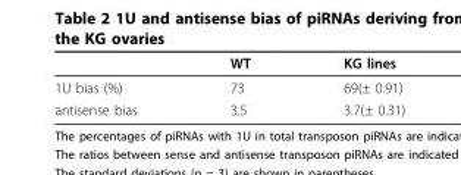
<table><thead><tr><td></td><td>WT</td><td>KG lines</td></tr></thead><tbody><tr><td>1U bias (%)</td><td>73</td><td>69(± 0.91)</td></tr><tr><td>antisense bias</td><td>3.5</td><td>3.7(± 0.31)</td></tr></tbody></table>